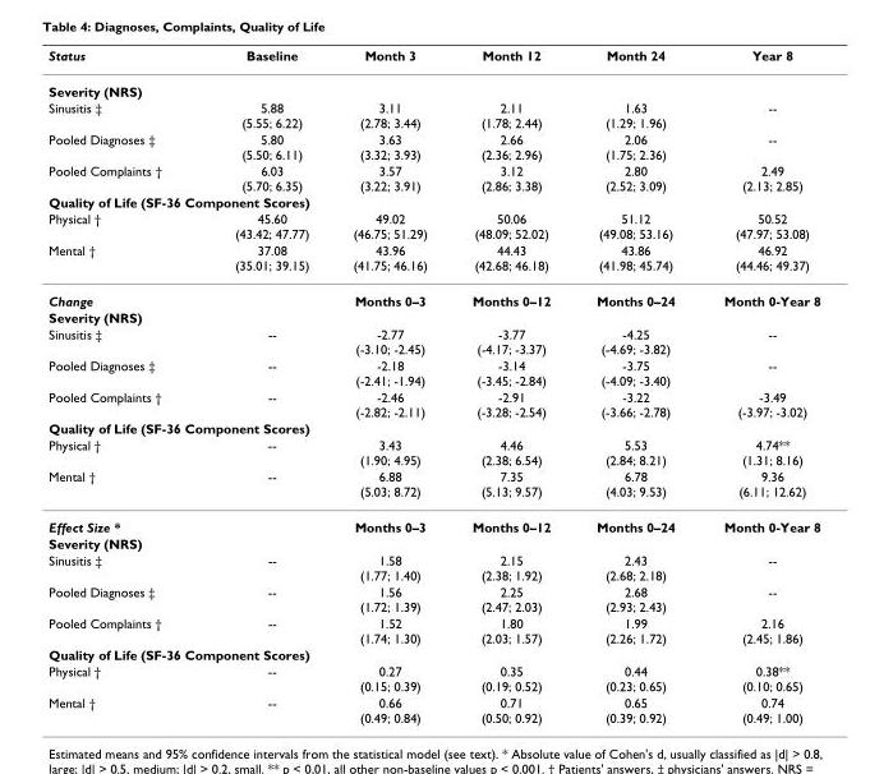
<table><thead><tr><td>Status</td><td>Baseline</td><td>Month 3</td><td>Month 12</td><td>Month 24</td><td>Year 8</td></tr></thead><tbody><tr><td colspan="6">Severity (NRS)</td></tr><tr><td>Sinusitis ‡</td><td>5.88 (5.55; 6.22)</td><td>3.11 (2.78; 3.44)</td><td>2.11 (1.78; 2.44)</td><td>1.63 (1.29; 1.96)</td><td>--</td></tr><tr><td>Pooled Diagnoses ‡</td><td>5.80 (5.50; 6.11)</td><td>3.63 (3.32; 3.93)</td><td>2.66 (2.36; 2.96)</td><td>2.06 (1.75; 2.36)</td><td>--</td></tr><tr><td>Pooled Complaints †</td><td>6.03 (5.70; 6.35)</td><td>3.57 (3.22; 3.91)</td><td>3.12 (2.86; 3.38)</td><td>2.80 (2.52; 3.09)</td><td>2.49 (2.13; 2.85)</td></tr><tr><td colspan="6">Quality of Life (SF-36 Component Scores)</td></tr><tr><td>Physical †</td><td>45.60 (43.42; 47.77)</td><td>49.02 (46.75; 51.29)</td><td>50.06 (48.09; 52.02)</td><td>51.12 (49.08; 53.16)</td><td>50.52 (47.97; 53.08)</td></tr><tr><td>Mental †</td><td>37.08 (35.01; 39.15)</td><td>43.96 (41.75; 46.16)</td><td>44.43 (42.68; 46.18)</td><td>43.86 (41.98; 45.74)</td><td>46.92 (44.46; 49.37)</td></tr><tr><td>Change</td><td></td><td>Months 0–3</td><td>Months 0–12</td><td>Months 0–24</td><td>Month 0-Year 8</td></tr><tr><td colspan="6">Severity (NRS)</td></tr><tr><td>Sinusitis ‡</td><td>--</td><td>-2.77 (-3.10; -2.45)</td><td>-3.77 (-4.17; -3.37)</td><td>-4.25 (-4.69; -3.82)</td><td>--</td></tr><tr><td>Pooled Diagnoses ‡</td><td>--</td><td>-2.18 (-2.41; -1.94)</td><td>-3.14 (-3.45; -2.84)</td><td>-3.75 (-4.09; -3.40)</td><td>--</td></tr><tr><td>Pooled Complaints †</td><td>--</td><td>-2.46 (-2.82; -2.11)</td><td>-2.91 (-3.28; -2.54)</td><td>-3.22 (-3.66; -2.78)</td><td>-3.49 (-3.97; -3.02)</td></tr><tr><td colspan="6">Quality of Life (SF-36 Component Scores)</td></tr><tr><td>Physical †</td><td>--</td><td>3.43 (1.90; 4.95)</td><td>4.46 (2.38; 6.54)</td><td>5.53 (2.84; 8.21)</td><td>4.74** (1.31; 8.16)</td></tr><tr><td>Mental †</td><td>--</td><td>6.88 (5.03; 8.72)</td><td>7.35 (5.13; 9.57)</td><td>6.78 (4.03; 9.53)</td><td>9.36 (6.11; 12.62)</td></tr><tr><td>Effect Size *</td><td></td><td>Months 0–3</td><td>Months 0–12</td><td>Months 0–24</td><td>Month 0-Year 8</td></tr><tr><td colspan="6">Severity (NRS)</td></tr><tr><td>Sinusitis ‡</td><td>--</td><td>1.58 (1.77; 1.40)</td><td>2.15 (2.38; 1.92)</td><td>2.43 (2.68; 2.18)</td><td>--</td></tr><tr><td>Pooled Diagnoses ‡</td><td>--</td><td>1.56 (1.72; 1.39)</td><td>2.25 (2.47; 2.03)</td><td>2.68 (2.93; 2.43)</td><td>--</td></tr><tr><td>Pooled Complaints †</td><td>--</td><td>1.52 (1.74; 1.30)</td><td>1.80 (2.03; 1.57)</td><td>1.99 (2.26; 1.72)</td><td>2.16 (2.45; 1.86)</td></tr><tr><td colspan="6">Quality of Life (SF-36 Component Scores)</td></tr><tr><td>Physical †</td><td>--</td><td>0.27 (0.15; 0.39)</td><td>0.35 (0.19; 0.52)</td><td>0.44 (0.23; 0.65)</td><td>0.38** (0.10; 0.65)</td></tr><tr><td>Mental †</td><td>--</td><td>0.66 (0.49; 0.84)</td><td>0.71 (0.50; 0.92)</td><td>0.65 (0.39; 0.92)</td><td>0.74 (0.49; 1.00)</td></tr></tbody></table>